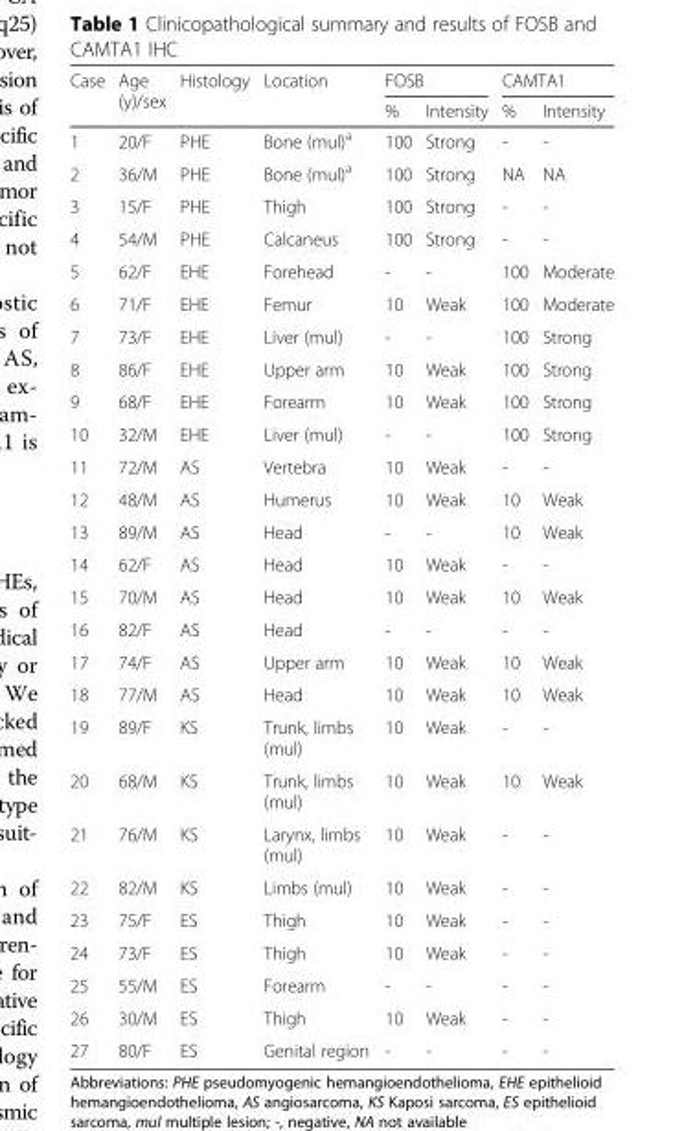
<table><thead><tr><td rowspan="2">Case</td><td rowspan="2">Age (y)/sex</td><td rowspan="2">Histology</td><td rowspan="2">Location</td><td colspan="2">FOSB</td><td colspan="2">CAMTA1</td></tr><tr><td>%</td><td>Intensity</td><td>%</td><td>Intensity</td></tr></thead><tbody><tr><td>1</td><td>20/F</td><td>PHE</td><td>Bone (mul)<sup>a</sup></td><td>100</td><td>Strong</td><td>-</td><td>-</td></tr><tr><td>2</td><td>36/M</td><td>PHE</td><td>Bone (mul)<sup>a</sup></td><td>100</td><td>Strong</td><td>NA</td><td>NA</td></tr><tr><td>3</td><td>15/F</td><td>PHE</td><td>Thigh</td><td>100</td><td>Strong</td><td>-</td><td>-</td></tr><tr><td>4</td><td>54/M</td><td>PHE</td><td>Calcaneus</td><td>100</td><td>Strong</td><td>-</td><td>-</td></tr><tr><td>5</td><td>62/F</td><td>EHE</td><td>Forehead</td><td>-</td><td>-</td><td>100</td><td>Moderate</td></tr><tr><td>6</td><td>71/F</td><td>EHE</td><td>Femur</td><td>10</td><td>Weak</td><td>100</td><td>Moderate</td></tr><tr><td>7</td><td>73/F</td><td>EHE</td><td>Liver (mul)</td><td>-</td><td>-</td><td>100</td><td>Strong</td></tr><tr><td>8</td><td>86/F</td><td>EHE</td><td>Upper arm</td><td>10</td><td>Weak</td><td>100</td><td>Strong</td></tr><tr><td>9</td><td>68/F</td><td>EHE</td><td>Forearm</td><td>10</td><td>Weak</td><td>100</td><td>Strong</td></tr><tr><td>10</td><td>32/M</td><td>EHE</td><td>Liver (mul)</td><td>-</td><td>-</td><td>100</td><td>Strong</td></tr><tr><td>11</td><td>72/M</td><td>AS</td><td>Vertebra</td><td>10</td><td>Weak</td><td>-</td><td>-</td></tr><tr><td>12</td><td>48/M</td><td>AS</td><td>Humerus</td><td>10</td><td>Weak</td><td>10</td><td>Weak</td></tr><tr><td>13</td><td>89/M</td><td>AS</td><td>Head</td><td>-</td><td>-</td><td>10</td><td>Weak</td></tr><tr><td>14</td><td>62/F</td><td>AS</td><td>Head</td><td>10</td><td>Weak</td><td>-</td><td>-</td></tr><tr><td>15</td><td>70/M</td><td>AS</td><td>Head</td><td>10</td><td>Weak</td><td>10</td><td>Weak</td></tr><tr><td>16</td><td>82/F</td><td>AS</td><td>Head</td><td>-</td><td>-</td><td>-</td><td>-</td></tr><tr><td>17</td><td>74/F</td><td>AS</td><td>Upper arm</td><td>10</td><td>Weak</td><td>10</td><td>Weak</td></tr><tr><td>18</td><td>77/M</td><td>AS</td><td>Head</td><td>10</td><td>Weak</td><td>10</td><td>Weak</td></tr><tr><td>19</td><td>89/F</td><td>KS</td><td>Trunk, limbs (mul)</td><td>10</td><td>Weak</td><td>-</td><td>-</td></tr><tr><td>20</td><td>68/M</td><td>KS</td><td>Trunk, limbs (mul)</td><td>10</td><td>Weak</td><td>10</td><td>Weak</td></tr><tr><td>21</td><td>76/M</td><td>KS</td><td>Larynx, limbs (mul)</td><td>10</td><td>Weak</td><td>-</td><td>-</td></tr><tr><td>22</td><td>82/M</td><td>KS</td><td>Limbs (mul)</td><td>10</td><td>Weak</td><td>-</td><td>-</td></tr><tr><td>23</td><td>75/F</td><td>ES</td><td>Thigh</td><td>10</td><td>Weak</td><td>-</td><td>-</td></tr><tr><td>24</td><td>73/F</td><td>ES</td><td>Thigh</td><td>10</td><td>Weak</td><td>-</td><td>-</td></tr><tr><td>25</td><td>55/M</td><td>ES</td><td>Forearm</td><td>-</td><td>-</td><td>-</td><td>-</td></tr><tr><td>26</td><td>30/M</td><td>ES</td><td>Thigh</td><td>10</td><td>Weak</td><td>-</td><td>-</td></tr><tr><td>27</td><td>80/F</td><td>ES</td><td>Genital region</td><td>-</td><td>-</td><td>-</td><td>-</td></tr></tbody></table>